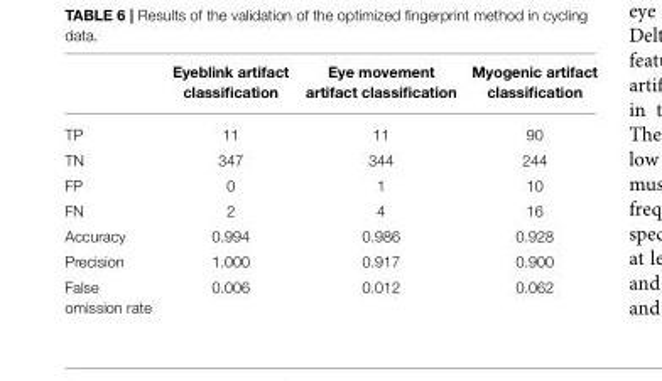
<table><thead><tr><td></td><td>Eyeblink artifact classification</td><td>Eye movement artifact classification</td><td>Myogenic artifact classification</td></tr></thead><tbody><tr><td>TP</td><td>11</td><td>11</td><td>90</td></tr><tr><td>TN</td><td>347</td><td>344</td><td>244</td></tr><tr><td>FP</td><td>0</td><td>1</td><td>10</td></tr><tr><td>FN</td><td>2</td><td>4</td><td>16</td></tr><tr><td>Accuracy</td><td>0.994</td><td>0.986</td><td>0.928</td></tr><tr><td>Precision</td><td>1.000</td><td>0.917</td><td>0.900</td></tr><tr><td>False omission rate</td><td>0.006</td><td>0.012</td><td>0.062</td></tr></tbody></table>